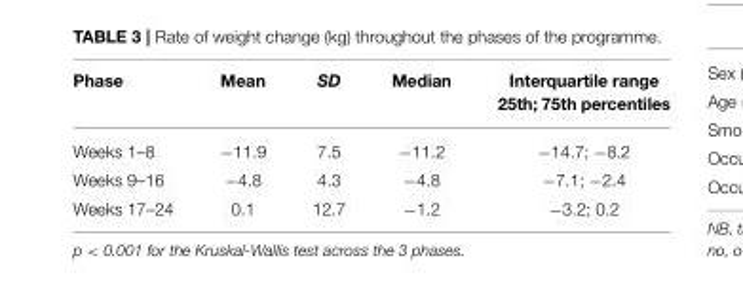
<table><thead><tr><td>Phase</td><td>Mean</td><td>SD</td><td>Median</td><td>Interquartile range 25th; 75th percentiles</td></tr></thead><tbody><tr><td>Weeks 1–8</td><td>−11.9</td><td>7.5</td><td>−11.2</td><td>−14.7; −8.2</td></tr><tr><td>Weeks 9–16</td><td>−4.8</td><td>4.3</td><td>−4.8</td><td>−7.1; −2.4</td></tr><tr><td>Weeks 17–24</td><td>0.1</td><td>12.7</td><td>−1.2</td><td>−3.2; 0.2</td></tr></tbody></table>